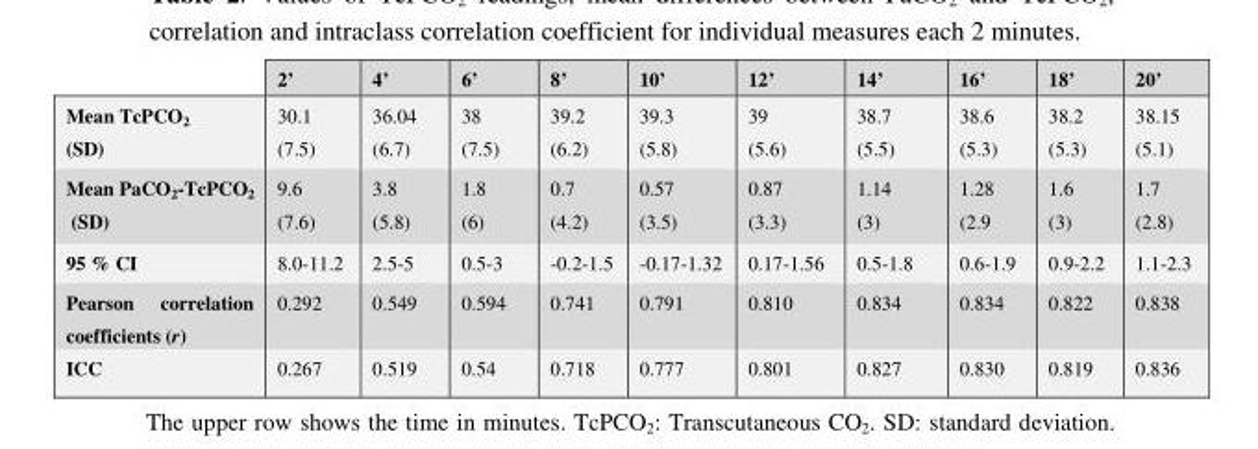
<table><thead><tr><td></td><td>2’</td><td>4’</td><td>6’</td><td>8’</td><td>10’</td><td>12’</td><td>14’</td><td>16’</td><td>18’</td><td>20’</td></tr></thead><tbody><tr><td>Mean TcPCO<sub>2</sub> (SD)</td><td>30.1 (7.5)</td><td>36.04 (6.7)</td><td>38 (7.5)</td><td>39.2 (6.2)</td><td>39.3 (5.8)</td><td>39 (5.6)</td><td>38.7 (5.5)</td><td>38.6 (5.3)</td><td>38.2 (5.3)</td><td>38.15 (5.1)</td></tr><tr><td>Mean PaCO<sub>2</sub>-TcPCO<sub>2</sub> (SD)</td><td>9.6 (7.6)</td><td>3.8 (5.8)</td><td>1.8 (6)</td><td>0.7 (4.2)</td><td>0.57 (3.5)</td><td>0.87 (3.3)</td><td>1.14 (3)</td><td>1.28 (2.9</td><td>1.6 (3)</td><td>1.7 (2.8)</td></tr><tr><td>95 % CI</td><td>8.0-11.2</td><td>2.5-5</td><td>0.5-3</td><td>-0.2-1.5</td><td>-0.17-1.32</td><td>0.17-1.56</td><td>0.5-1.8</td><td>0.6-1.9</td><td>0.9-2.2</td><td>1.1-2.3</td></tr><tr><td>Pearson correlation coefficients (r)</td><td>0.292</td><td>0.549</td><td>0.594</td><td>0.741</td><td>0.791</td><td>0.810</td><td>0.834</td><td>0.834</td><td>0.822</td><td>0.838</td></tr><tr><td>ICC</td><td>0.267</td><td>0.519</td><td>0.54</td><td>0.718</td><td>0.777</td><td>0.801</td><td>0.827</td><td>0.830</td><td>0.819</td><td>0.836</td></tr></tbody></table>